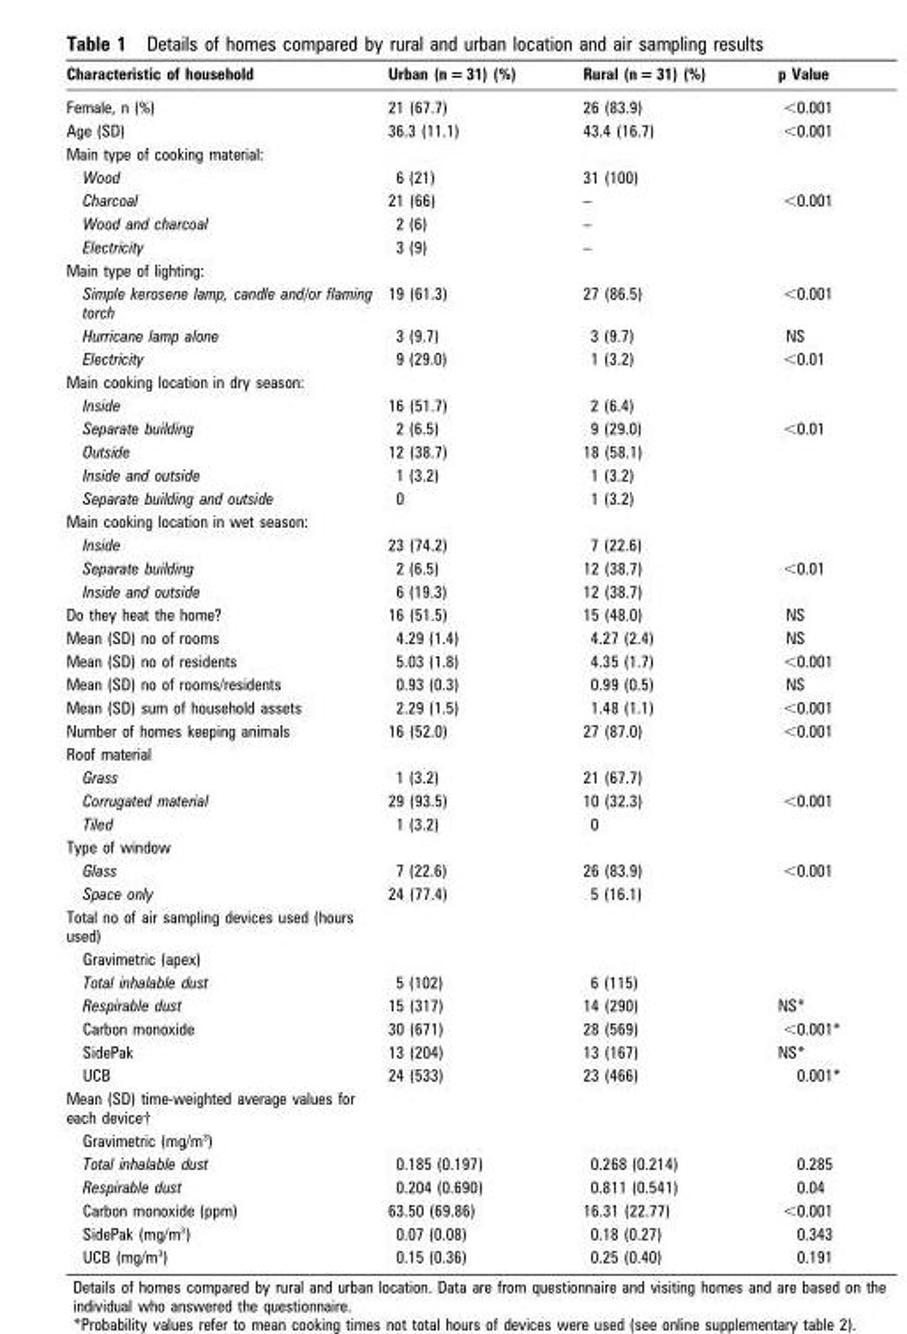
<table><thead><tr><td>Characteristic of household</td><td>Urban (n = 31) (%)</td><td>Rural (n = 31) (%)</td><td>p Value</td></tr></thead><tbody><tr><td>Female, n (%)</td><td>21 (67.7)</td><td>26 (83.9)</td><td>&lt;0.001</td></tr><tr><td>Age (SD)</td><td>36.3 (11.1)</td><td>43.4 (16.7)</td><td>&lt;0.001</td></tr><tr><td colspan="4">Main type of cooking material:</td></tr><tr><td>Wood</td><td>6 (21)</td><td>31 (100)</td><td></td></tr><tr><td>Charcoal</td><td>21 (66)</td><td>–</td><td>&lt;0.001</td></tr><tr><td>Wood and charcoal</td><td>2 (6)</td><td>–</td><td></td></tr><tr><td>Electricity</td><td>3 (9)</td><td>–</td><td></td></tr><tr><td colspan="4">Main type of lighting:</td></tr><tr><td>Simple kerosene lamp, candle and/or flaming torch</td><td>19 (61.3)</td><td>27 (86.5)</td><td>&lt;0.001</td></tr><tr><td>Hurricane lamp alone</td><td>3 (9.7)</td><td>3 (9.7)</td><td>NS</td></tr><tr><td>Electricity</td><td>9 (29.0)</td><td>1 (3.2)</td><td>&lt;0.01</td></tr><tr><td colspan="4">Main cooking location in dry season:</td></tr><tr><td>Inside</td><td>16 (51.7)</td><td>2 (6.4)</td><td></td></tr><tr><td>Separate building</td><td>2 (6.5)</td><td>9 (29.0)</td><td>&lt;0.01</td></tr><tr><td>Outside</td><td>12 (38.7)</td><td>18 (58.1)</td><td></td></tr><tr><td>Inside and outside</td><td>1 (3.2)</td><td>1 (3.2)</td><td></td></tr><tr><td>Separate building and outside</td><td>0</td><td>1 (3.2)</td><td></td></tr><tr><td colspan="4">Main cooking location in wet season:</td></tr><tr><td>Inside</td><td>23 (74.2)</td><td>7 (22.6)</td><td></td></tr><tr><td>Separate building</td><td>2 (6.5)</td><td>12 (38.7)</td><td>&lt;0.01</td></tr><tr><td>Inside and outside</td><td>6 (19.3)</td><td>12 (38.7)</td><td></td></tr><tr><td>Do they heat the home?</td><td>16 (51.5)</td><td>15 (48.0)</td><td>NS</td></tr><tr><td>Mean (SD) no of rooms</td><td>4.29 (1.4)</td><td>4.27 (2.4)</td><td>NS</td></tr><tr><td>Mean (SD) no of residents</td><td>5.03 (1.8)</td><td>4.35 (1.7)</td><td>&lt;0.001</td></tr><tr><td>Mean (SD) no of rooms/residents</td><td>0.93 (0.3)</td><td>0.99 (0.5)</td><td>NS</td></tr><tr><td>Mean (SD) sum of household assets</td><td>2.29 (1.5)</td><td>1.48 (1.1)</td><td>&lt;0.001</td></tr><tr><td>Number of homes keeping animals</td><td>16 (52.0)</td><td>27 (87.0)</td><td>&lt;0.001</td></tr><tr><td colspan="4">Roof material</td></tr><tr><td>Grass</td><td>1 (3.2)</td><td>21 (67.7)</td><td></td></tr><tr><td>Corrugated material</td><td>29 (93.5)</td><td>10 (32.3)</td><td>&lt;0.001</td></tr><tr><td>Tiled</td><td>1 (3.2)</td><td>0</td><td></td></tr><tr><td colspan="4">Type of window</td></tr><tr><td>Glass</td><td>7 (22.6)</td><td>26 (83.9)</td><td>&lt;0.001</td></tr><tr><td>Space only</td><td>24 (77.4)</td><td>5 (16.1)</td><td></td></tr><tr><td colspan="4">Total no of air sampling devices used (hours used)</td></tr><tr><td colspan="4">Gravimetric (apex)</td></tr><tr><td>Total inhalable dust</td><td>5 (102)</td><td>6 (115)</td><td></td></tr><tr><td>Respirable dust</td><td>15 (317)</td><td>14 (290)</td><td>NS*</td></tr><tr><td>Carbon monoxide</td><td>30 (671)</td><td>28 (569)</td><td>&lt;0.001*</td></tr><tr><td>SidePak</td><td>13 (204)</td><td>13 (167)</td><td>NS*</td></tr><tr><td>UCB</td><td>24 (533)</td><td>23 (466)</td><td>0.001*</td></tr><tr><td colspan="4">Mean (SD) time-weighted average values for each device†</td></tr><tr><td colspan="4">Gravimetric (mg/m<sup>3</sup>)</td></tr><tr><td>Total inhalable dust</td><td>0.185 (0.197)</td><td>0.268 (0.214)</td><td>0.285</td></tr><tr><td>Respirable dust</td><td>0.204 (0.690)</td><td>0.811 (0.541)</td><td>0.04</td></tr><tr><td>Carbon monoxide (ppm)</td><td>63.50 (69.86)</td><td>16.31 (22.77)</td><td>&lt;0.001</td></tr><tr><td>SidePak (mg/m<sup>3</sup>)</td><td>0.07 (0.08)</td><td>0.18 (0.27)</td><td>0.343</td></tr><tr><td>UCB (mg/m<sup>3</sup>)</td><td>0.15 (0.36)</td><td>0.25 (0.40)</td><td>0.191</td></tr></tbody></table>